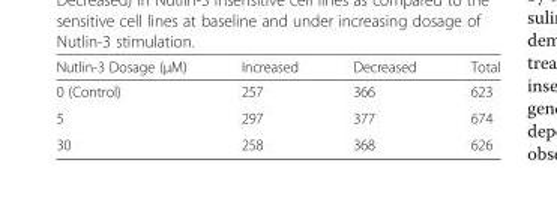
<table><thead><tr><td>Nutlin-3 Dosage (μM)</td><td>Increased</td><td>Decreased</td><td>Total</td></tr></thead><tbody><tr><td>0 (Control)</td><td>257</td><td>366</td><td>623</td></tr><tr><td>5</td><td>297</td><td>377</td><td>674</td></tr><tr><td>30</td><td>258</td><td>368</td><td>626</td></tr></tbody></table>